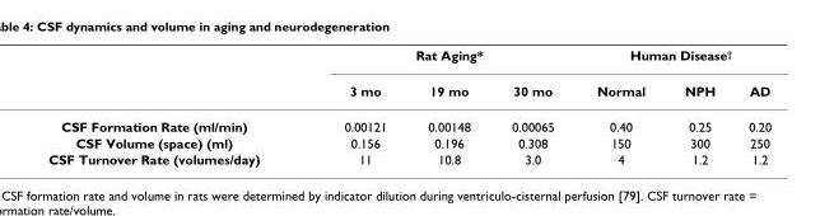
<table><thead><tr><td rowspan="2"></td><td colspan="3">Rat Aging*</td><td colspan="3">Human Disease<sup>†</sup></td></tr><tr><td>3 mo</td><td>19 mo</td><td>30 mo</td><td>Normal</td><td>NPH</td><td>AD</td></tr></thead><tbody><tr><td>CSF Formation Rate (ml/min)</td><td>0.00121</td><td>0.00148</td><td>0.00065</td><td>0.40</td><td>0.25</td><td>0.20</td></tr><tr><td>CSF Volume (space) (ml)</td><td>0.156</td><td>0.196</td><td>0.308</td><td>150</td><td>300</td><td>250</td></tr><tr><td>CSF Turnover Rate (volumes/day)</td><td>11</td><td>10.8</td><td>3.0</td><td>4</td><td>1.2</td><td>1.2</td></tr></tbody></table>